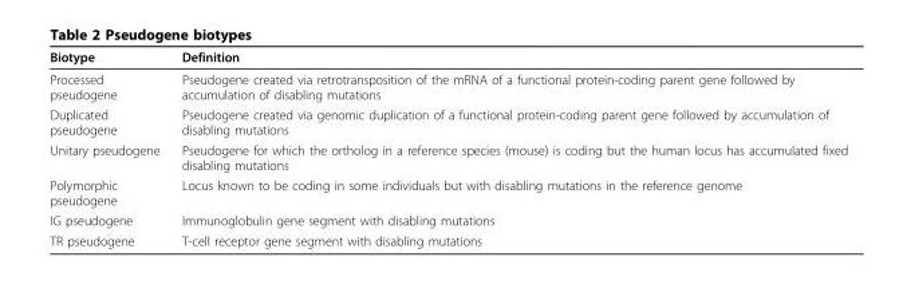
<table><thead><tr><td>Biotype</td><td>Definition</td></tr></thead><tbody><tr><td>Processed pseudogene</td><td>Pseudogene created via retrotransposition of the mRNA of a functional protein-coding parent gene followed by accumulation of disabling mutations</td></tr><tr><td>Duplicated pseudogene</td><td>Pseudogene created via genomic duplication of a functional protein-coding parent gene followed by accumulation of disabling mutations</td></tr><tr><td>Unitary pseudogene</td><td>Pseudogene for which the ortholog in a reference species (mouse) is coding but the human locus has accumulated fixed disabling mutations</td></tr><tr><td>Polymorphic pseudogene</td><td>Locus known to be coding in some individuals but with disabling mutations in the reference genome</td></tr><tr><td>IG pseudogene</td><td>Immunoglobulin gene segment with disabling mutations</td></tr><tr><td>TR pseudogene</td><td>T-cell receptor gene segment with disabling mutations</td></tr></tbody></table>